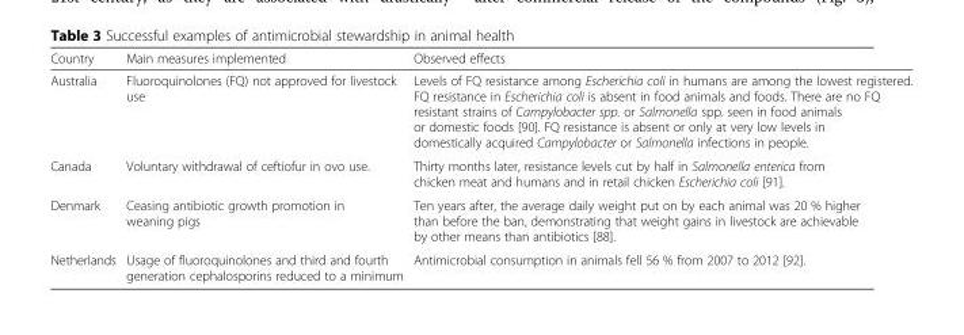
<table><thead><tr><td>Country</td><td>Main measures implemented</td><td>Observed effects</td></tr></thead><tbody><tr><td>Australia</td><td>Fluoroquinolones (FQ) not approved for livestock use</td><td>Levels of FQ resistance among Escherichia coli in humans are among the lowest registered. FQ resistance in Escherichia coli is absent in food animals and foods. There are no FQ resistant strains of Campylobacter spp. or Salmonella spp. seen in food animals or domestic foods [90]. FQ resistance is absent or only at very low levels in domestically acquired Campylobacter or Salmonella infections in people.</td></tr><tr><td>Canada</td><td>Voluntary withdrawal of ceftiofur in ovo use.</td><td>Thirty months later, resistance levels cut by half in Salmonella enterica from chicken meat and humans and in retail chicken Escherichia coli [91].</td></tr><tr><td>Denmark</td><td>Ceasing antibiotic growth promotion in weaning pigs</td><td>Ten years after, the average daily weight put on by each animal was 20 % higher than before the ban, demonstrating that weight gains in livestock are achievable by other means than antibiotics [88].</td></tr><tr><td>Netherlands</td><td>Usage of fluoroquinolones and third and fourth generation cephalosporins reduced to a minimum</td><td>Antimicrobial consumption in animals fell 56 % from 2007 to 2012 [92].</td></tr></tbody></table>